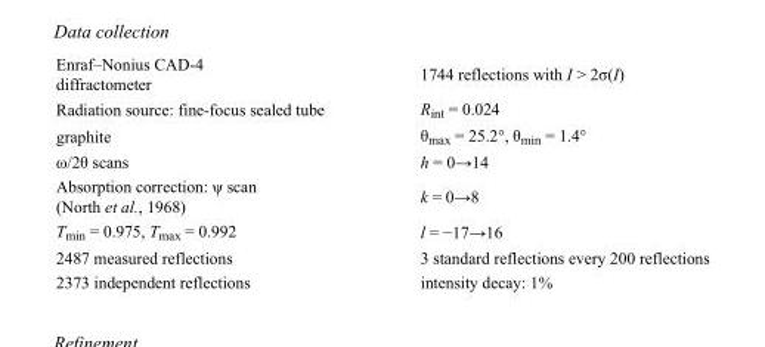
<table><tbody><tr><td>Enraf–Nonius CAD-4 diffractometer</td><td>1744 reflections with I &gt; 2σ(I)</td></tr><tr><td>Radiation source: fine-focus sealed tube</td><td>R<sub>int</sub> = 0.024</td></tr><tr><td>graphite</td><td>θ<sub>max</sub> = 25.2°, θ<sub>min</sub> = 1.4°</td></tr><tr><td>ω/2θ scans</td><td>h = 0→14</td></tr><tr><td>Absorption correction: ψ scan (North et al., 1968)</td><td>k = 0→8</td></tr><tr><td>T<sub>min</sub> = 0.975, T<sub>max</sub> = 0.992</td><td>l = −17→16</td></tr><tr><td>2487 measured reflections</td><td>3 standard reflections every 200 reflections</td></tr><tr><td>2373 independent reflections</td><td>intensity decay: 1%</td></tr></tbody></table>